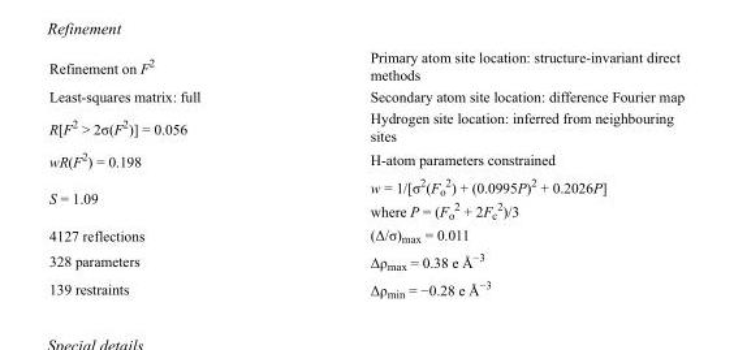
<table><tbody><tr><td>Refinement on F<sup>2</sup></td><td>Primary atom site location: structure-invariant direct methods</td></tr><tr><td>Least-squares matrix: full</td><td>Secondary atom site location: difference Fourier map</td></tr><tr><td>R[F<sup>2</sup> &gt; 2σ(F<sup>2</sup>)] = 0.056</td><td>Hydrogen site location: inferred from neighbouring sites</td></tr><tr><td>wR(F<sup>2</sup>) = 0.198</td><td>H-atom parameters constrained</td></tr><tr><td>S = 1.09</td><td>w = 1/[σ<sup>2</sup>(F<sub>o</sub> <sup>2</sup>) + (0.0995P)<sup>2</sup> + 0.2026P] where P = (F<sub>o</sub> <sup>2</sup> + 2F<sub>c</sub> <sup>2</sup>)/3</td></tr><tr><td>4127 reflections</td><td>(Δ/σ)<sub>max</sub> = 0.011</td></tr><tr><td>328 parameters</td><td>Δρ<sub>max</sub> = 0.38 e Å<sup>−3</sup></td></tr><tr><td>139 restraints</td><td>Δρ<sub>min</sub> = −0.28 e Å<sup>−3</sup></td></tr></tbody></table>